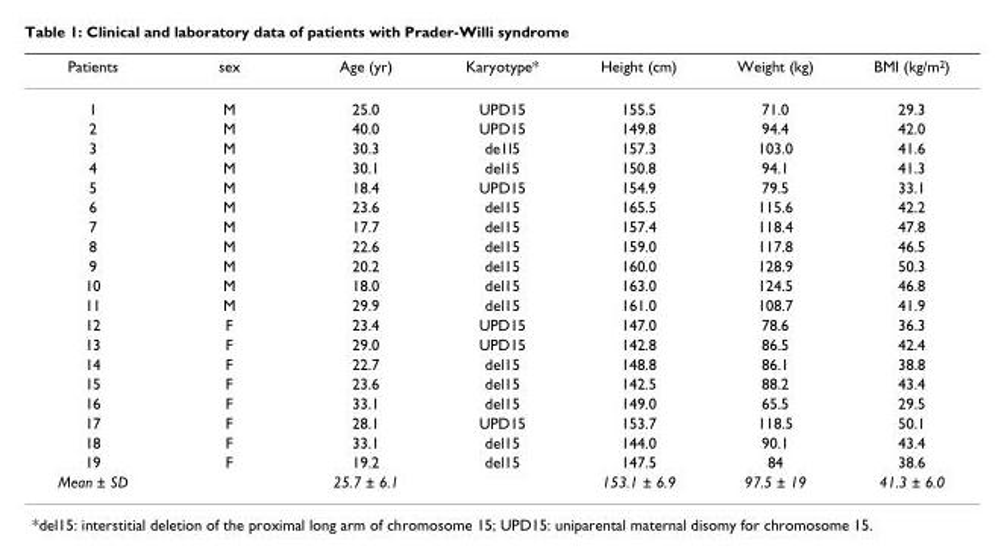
<table><thead><tr><td>Patients</td><td>sex</td><td>Age (yr)</td><td>Karyotype*</td><td>Height (cm)</td><td>Weight (kg)</td><td>BMI (kg/m<sup>2</sup>)</td></tr></thead><tbody><tr><td>1</td><td>M</td><td>25.0</td><td>UPD15</td><td>155.5</td><td>71.0</td><td>29.3</td></tr><tr><td>2</td><td>M</td><td>40.0</td><td>UPD15</td><td>149.8</td><td>94.4</td><td>42.0</td></tr><tr><td>3</td><td>M</td><td>30.3</td><td>de1l5</td><td>157.3</td><td>103.0</td><td>41.6</td></tr><tr><td>4</td><td>M</td><td>30.1</td><td>del15</td><td>150.8</td><td>94.1</td><td>41.3</td></tr><tr><td>5</td><td>M</td><td>18.4</td><td>UPD15</td><td>154.9</td><td>79.5</td><td>33.1</td></tr><tr><td>6</td><td>M</td><td>23.6</td><td>del15</td><td>165.5</td><td>115.6</td><td>42.2</td></tr><tr><td>7</td><td>M</td><td>17.7</td><td>del15</td><td>157.4</td><td>118.4</td><td>47.8</td></tr><tr><td>8</td><td>M</td><td>22.6</td><td>del15</td><td>159.0</td><td>117.8</td><td>46.5</td></tr><tr><td>9</td><td>M</td><td>20.2</td><td>del15</td><td>160.0</td><td>128.9</td><td>50.3</td></tr><tr><td>10</td><td>M</td><td>18.0</td><td>del15</td><td>163.0</td><td>124.5</td><td>46.8</td></tr><tr><td>11</td><td>M</td><td>29.9</td><td>del15</td><td>161.0</td><td>108.7</td><td>41.9</td></tr><tr><td>12</td><td>F</td><td>23.4</td><td>UPD15</td><td>147.0</td><td>78.6</td><td>36.3</td></tr><tr><td>13</td><td>F</td><td>29.0</td><td>UPD15</td><td>142.8</td><td>86.5</td><td>42.4</td></tr><tr><td>14</td><td>F</td><td>22.7</td><td>del15</td><td>148.8</td><td>86.1</td><td>38.8</td></tr><tr><td>15</td><td>F</td><td>23.6</td><td>del15</td><td>142.5</td><td>88.2</td><td>43.4</td></tr><tr><td>16</td><td>F</td><td>33.1</td><td>del15</td><td>149.0</td><td>65.5</td><td>29.5</td></tr><tr><td>17</td><td>F</td><td>28.1</td><td>UPD15</td><td>153.7</td><td>118.5</td><td>50.1</td></tr><tr><td>18</td><td>F</td><td>33.1</td><td>del15</td><td>144.0</td><td>90.1</td><td>43.4</td></tr><tr><td>19</td><td>F</td><td>19.2</td><td>del15</td><td>147.5</td><td>84</td><td>38.6</td></tr><tr><td>Mean ± SD</td><td></td><td>25.7 ± 6.1</td><td></td><td>153.1 ± 6.9</td><td>97.5 ± 19</td><td>41.3 ± 6.0</td></tr></tbody></table>